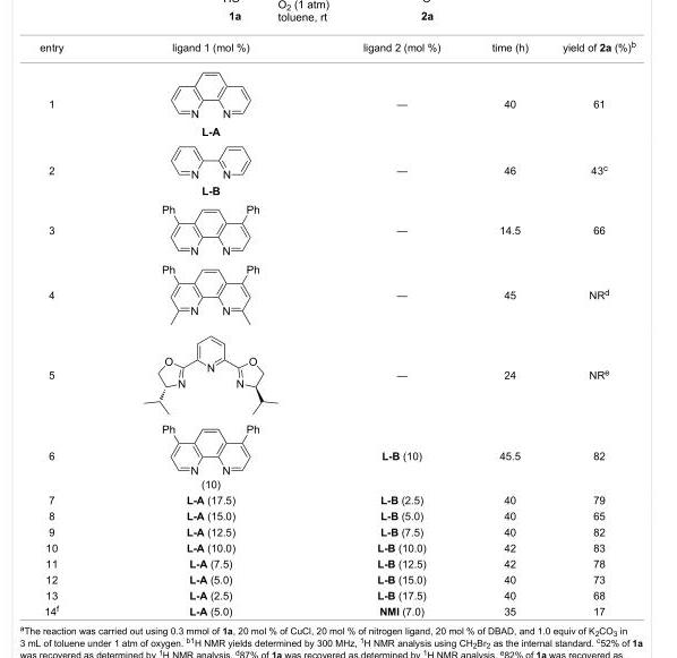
<table><tbody><tr><td>entry</td><td>ligand 1 (mol %)</td><td>ligand 2 (mol %)</td><td>time (h)</td><td>yield of 2a (%)<sup>b</sup></td></tr><tr><td>1</td><td></td><td>—</td><td>40</td><td>61</td></tr><tr><td>2</td><td></td><td>—</td><td>46</td><td>43<sup>c</sup></td></tr><tr><td>3</td><td></td><td>—</td><td>14.5</td><td>66</td></tr><tr><td>4</td><td></td><td>—</td><td>45</td><td>NR<sup>d</sup></td></tr><tr><td>5</td><td></td><td>—</td><td>24</td><td>NR<sup>e</sup></td></tr><tr><td>6</td><td>(10)</td><td>L-B (10)</td><td>45.5</td><td>82</td></tr><tr><td>7</td><td>L-A (17.5)</td><td>L-B (2.5)</td><td>40</td><td>79</td></tr><tr><td>8</td><td>L-A (15.0)</td><td>L-B (5.0)</td><td>40</td><td>65</td></tr><tr><td>9</td><td>L-A (12.5)</td><td>L-B (7.5)</td><td>40</td><td>82</td></tr><tr><td>10</td><td>L-A (10.0)</td><td>L-B (10.0)</td><td>42</td><td>83</td></tr><tr><td>11</td><td>L-A (7.5)</td><td>L-B (12.5)</td><td>42</td><td>78</td></tr><tr><td>12</td><td>L-A (5.0)</td><td>L-B (15.0)</td><td>40</td><td>73</td></tr><tr><td>13</td><td>L-A (2.5)</td><td>L-B (17.5)</td><td>40</td><td>68</td></tr><tr><td>14<sup>f</sup></td><td>L-A (5.0)</td><td>NMI (7.0)</td><td>35</td><td>17</td></tr></tbody></table>